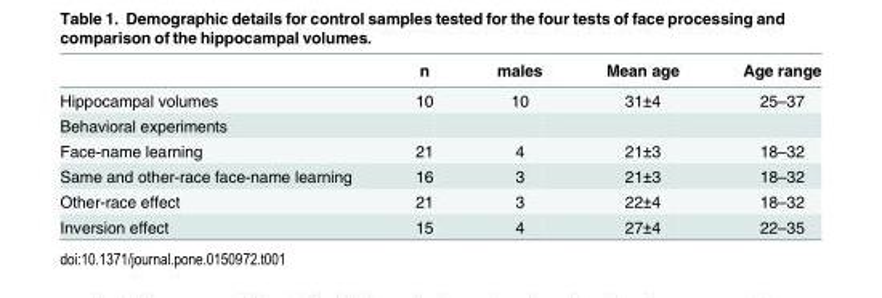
<table><thead><tr><td></td><td>n</td><td>males</td><td>Mean age</td><td>Age range</td></tr></thead><tbody><tr><td>Hippocampal volumes</td><td>10</td><td>10</td><td>31±4</td><td>25–37</td></tr><tr><td colspan="5">Behavioral experiments</td></tr><tr><td>Face-name learning</td><td>21</td><td>4</td><td>21±3</td><td>18–32</td></tr><tr><td>Same and other-race face-name learning</td><td>16</td><td>3</td><td>21±3</td><td>18–32</td></tr><tr><td>Other-race effect</td><td>21</td><td>3</td><td>22±4</td><td>18–32</td></tr><tr><td>Inversion effect</td><td>15</td><td>4</td><td>27±4</td><td>22–35</td></tr></tbody></table>